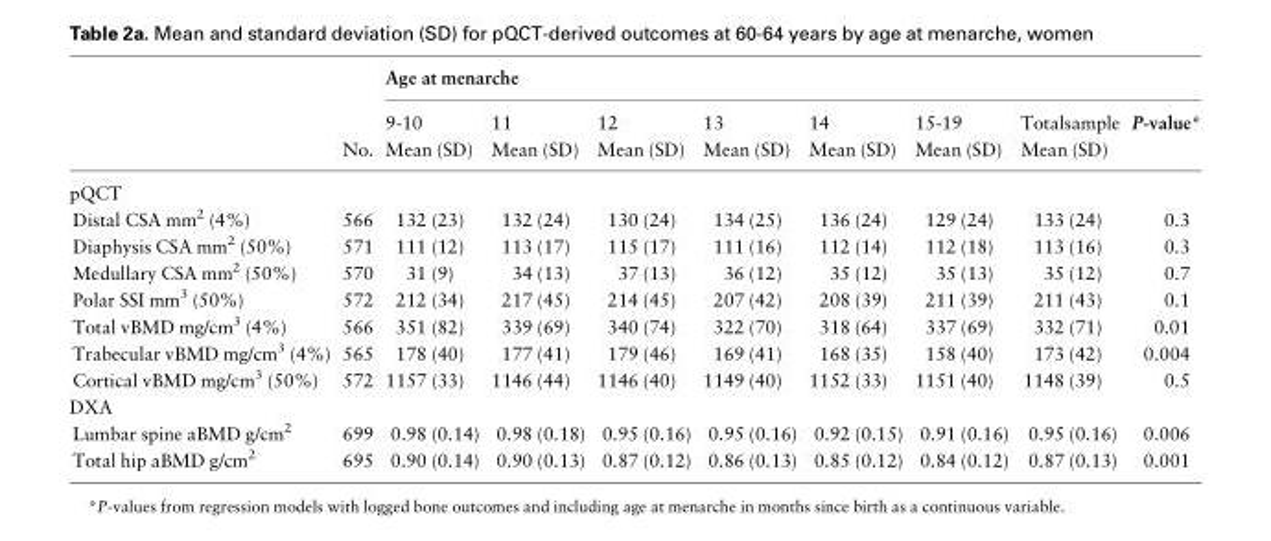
<table><thead><tr><td rowspan="3"></td><td rowspan="3">No.</td><td colspan="8">Age at menarche</td></tr><tr><td rowspan="2">9-10 Mean (SD)</td><td rowspan="2">11 Mean (SD)</td><td rowspan="2">12 Mean (SD)</td><td rowspan="2">13 Mean (SD)</td><td rowspan="2">14 Mean (SD)</td><td rowspan="2">15-19 Mean (SD)</td><td rowspan="2">Totalsample Mean (SD)</td><td rowspan="2">P-value*</td></tr><tr></tr></thead><tbody><tr><td colspan="10">pQCT</td></tr><tr><td>Distal CSA mm<sup>2</sup> (4%)</td><td>566</td><td>132 (23)</td><td>132 (24)</td><td>130 (24)</td><td>134 (25)</td><td>136 (24)</td><td>129 (24)</td><td>133 (24)</td><td>0.3</td></tr><tr><td>Diaphysis CSA mm<sup>2</sup> (50%)</td><td>571</td><td>111 (12)</td><td>113 (17)</td><td>115 (17)</td><td>111 (16)</td><td>112 (14)</td><td>112 (18)</td><td>113 (16)</td><td>0.3</td></tr><tr><td>Medullary CSA mm<sup>2</sup> (50%)</td><td>570</td><td>31 (9)</td><td>34 (13)</td><td>37 (13)</td><td>36 (12)</td><td>35 (12)</td><td>35 (13)</td><td>35 (12)</td><td>0.7</td></tr><tr><td>Polar SSI mm<sup>3</sup> (50%)</td><td>572</td><td>212 (34)</td><td>217 (45)</td><td>214 (45)</td><td>207 (42)</td><td>208 (39)</td><td>211 (39)</td><td>211 (43)</td><td>0.1</td></tr><tr><td>Total vBMD mg/cm<sup>3</sup> (4%)</td><td>566</td><td>351 (82)</td><td>339 (69)</td><td>340 (74)</td><td>322 (70)</td><td>318 (64)</td><td>337 (69)</td><td>332 (71)</td><td>0.01</td></tr><tr><td>Trabecular vBMD mg/cm<sup>3</sup> (4%)</td><td>565</td><td>178 (40)</td><td>177 (41)</td><td>179 (46)</td><td>169 (41)</td><td>168 (35)</td><td>158 (40)</td><td>173 (42)</td><td>0.004</td></tr><tr><td>Cortical vBMD mg/cm<sup>3</sup> (50%)</td><td>572</td><td>1157 (33)</td><td>1146 (44)</td><td>1146 (40)</td><td>1149 (40)</td><td>1152 (33)</td><td>1151 (40)</td><td>1148 (39)</td><td>0.5</td></tr><tr><td colspan="10">DXA</td></tr><tr><td>Lumbar spine aBMD g/cm<sup>2</sup></td><td>699</td><td>0.98 (0.14)</td><td>0.98 (0.18)</td><td>0.95 (0.16)</td><td>0.95 (0.16)</td><td>0.92 (0.15)</td><td>0.91 (0.16)</td><td>0.95 (0.16)</td><td>0.006</td></tr><tr><td>Total hip aBMD g/cm<sup>2</sup></td><td>695</td><td>0.90 (0.14)</td><td>0.90 (0.13)</td><td>0.87 (0.12)</td><td>0.86 (0.13)</td><td>0.85 (0.12)</td><td>0.84 (0.12)</td><td>0.87 (0.13)</td><td>0.001</td></tr></tbody></table>